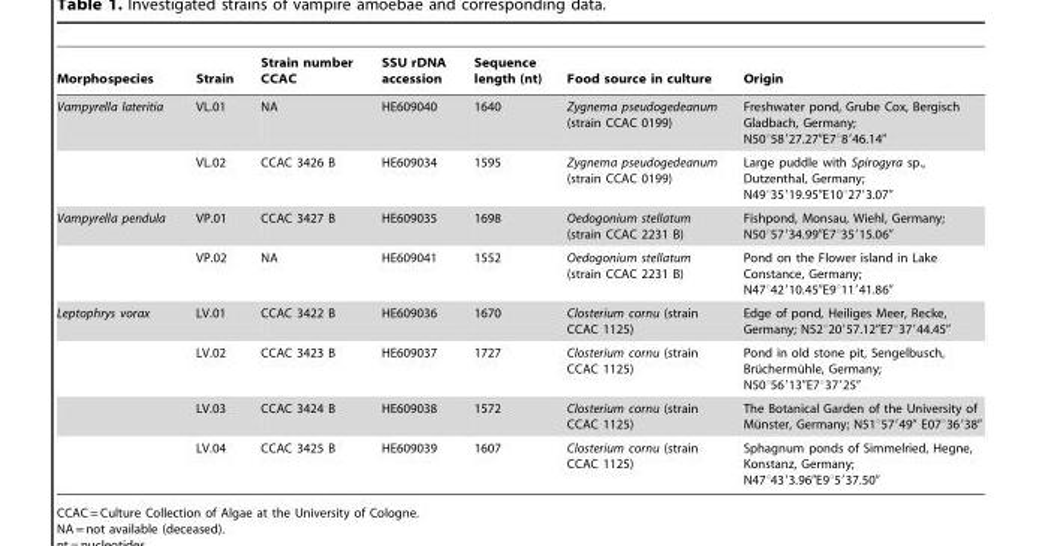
<table><thead><tr><td>Morphospecies</td><td>Strain</td><td>Strain number CCAC</td><td>SSU rDNA accession</td><td>Sequence length (nt)</td><td>Food source in culture</td><td>Origin</td></tr></thead><tbody><tr><td rowspan="2">Vampyrella lateritia</td><td>VL.01</td><td>NA</td><td>HE609040</td><td>1640</td><td>Zygnema pseudogedeanum (strain CCAC 0199)</td><td>Freshwater pond, Grube Cox, Bergisch Gladbach, Germany; N50°58′27.27″E7°8′46.14″</td></tr><tr><td>VL.02</td><td>CCAC 3426 B</td><td>HE609034</td><td>1595</td><td>Zygnema pseudogedeanum (strain CCAC 0199)</td><td>Large puddle with Spirogyra sp., Dutzenthal, Germany; N49°35′19.95″E10°27′3.07″</td></tr><tr><td rowspan="2">Vampyrella pendula</td><td>VP.01</td><td>CCAC 3427 B</td><td>HE609035</td><td>1698</td><td>Oedogonium stellatum (strain CCAC 2231 B)</td><td>Fishpond, Monsau, Wiehl, Germany; N50°57′34.99″E7°35′15.06″</td></tr><tr><td>VP.02</td><td>NA</td><td>HE609041</td><td>1552</td><td>Oedogonium stellatum (strain CCAC 2231 B)</td><td>Pond on the Flower island in Lake Constance, Germany; N47°42′10.45″E9°11′41.86″</td></tr><tr><td rowspan="4">Leptophrys vorax</td><td>LV.01</td><td>CCAC 3422 B</td><td>HE609036</td><td>1670</td><td>Closterium cornu (strain CCAC 1125)</td><td>Edge of pond, Heiliges Meer, Recke, Germany; N52°20′57.12″E7°37′44.45″</td></tr><tr><td>LV.02</td><td>CCAC 3423 B</td><td>HE609037</td><td>1727</td><td>Closterium cornu (strain CCAC 1125)</td><td>Pond in old stone pit, Sengelbusch, Bru¨chermu¨hle, Germany; N50u569130E7u379250</td></tr><tr><td>LV.03</td><td>CCAC 3424 B</td><td>HE609038</td><td>1572</td><td>Closterium cornu (strain CCAC 1125)</td><td>The Botanical Garden of the University of Mu¨nster, Germany; N51u579490 E07u369380</td></tr><tr><td>LV.04</td><td>CCAC 3425 B</td><td>HE609039</td><td>1607</td><td>Closterium cornu (strain CCAC 1125)</td><td>Sphagnum ponds of Simmelried, Hegne, Konstanz, Germany; N47°43′3.96″E9°5′37.50″</td></tr></tbody></table>